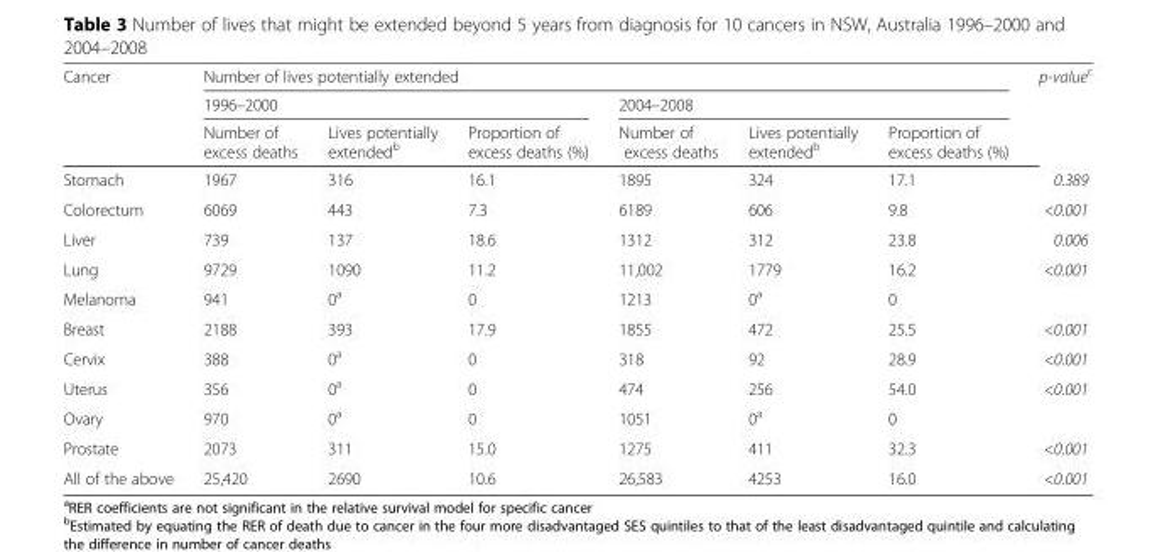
<table><thead><tr><td rowspan="3">Cancer</td><td colspan="6">Number of lives potentially extended</td><td rowspan="3">p-value<sup>c</sup></td></tr><tr><td colspan="3">1996–2000</td><td colspan="3">2004–2008</td></tr><tr><td>Number of excess deaths</td><td>Lives potentially extended<sup>b</sup></td><td>Proportion of excess deaths (%)</td><td>Number of excess deaths</td><td>Lives potentially extended<sup>b</sup></td><td>Proportion of excess deaths (%)</td></tr></thead><tbody><tr><td>Stomach</td><td>1967</td><td>316</td><td>16.1</td><td>1895</td><td>324</td><td>17.1</td><td>0.389</td></tr><tr><td>Colorectum</td><td>6069</td><td>443</td><td>7.3</td><td>6189</td><td>606</td><td>9.8</td><td>&lt;0.001</td></tr><tr><td>Liver</td><td>739</td><td>137</td><td>18.6</td><td>1312</td><td>312</td><td>23.8</td><td>0.006</td></tr><tr><td>Lung</td><td>9729</td><td>1090</td><td>11.2</td><td>11,002</td><td>1779</td><td>16.2</td><td>&lt;0.001</td></tr><tr><td>Melanoma</td><td>941</td><td>0<sup>a</sup></td><td>0</td><td>1213</td><td>0<sup>a</sup></td><td>0</td><td></td></tr><tr><td>Breast</td><td>2188</td><td>393</td><td>17.9</td><td>1855</td><td>472</td><td>25.5</td><td>&lt;0.001</td></tr><tr><td>Cervix</td><td>388</td><td>0<sup>a</sup></td><td>0</td><td>318</td><td>92</td><td>28.9</td><td>&lt;0.001</td></tr><tr><td>Uterus</td><td>356</td><td>0<sup>a</sup></td><td>0</td><td>474</td><td>256</td><td>54.0</td><td>&lt;0.001</td></tr><tr><td>Ovary</td><td>970</td><td>0<sup>a</sup></td><td>0</td><td>1051</td><td>0<sup>a</sup></td><td>0</td><td></td></tr><tr><td>Prostate</td><td>2073</td><td>311</td><td>15.0</td><td>1275</td><td>411</td><td>32.3</td><td>&lt;0.001</td></tr><tr><td>All of the above</td><td>25,420</td><td>2690</td><td>10.6</td><td>26,583</td><td>4253</td><td>16.0</td><td>&lt;0.001</td></tr></tbody></table>